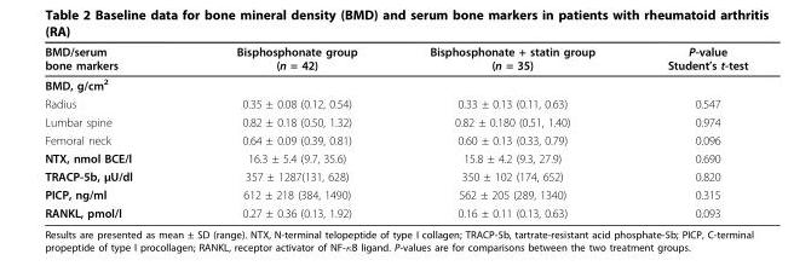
<table><thead><tr><td>BMD/serum bone markers</td><td>Bisphosphonate group (n = 42)</td><td>Bisphosphonate + statin group (n = 35)</td><td>P-value Student’s t-test</td></tr></thead><tbody><tr><td colspan="4">BMD, g/cm<sup>2</sup></td></tr><tr><td>Radius</td><td>0.35 ± 0.08 (0.12, 0.54)</td><td>0.33 ± 0.13 (0.11, 0.63)</td><td>0.547</td></tr><tr><td>Lumbar spine</td><td>0.82 ± 0.18 (0.50, 1.32)</td><td>0.82 ± 0.180 (0.51, 1.40)</td><td>0.974</td></tr><tr><td>Femoral neck</td><td>0.64 ± 0.09 (0.39, 0.81)</td><td>0.60 ± 0.13 (0.33, 0.79)</td><td>0.096</td></tr><tr><td>NTX, nmol BCE/l</td><td>16.3 ± 5.4 (9.7, 35.6)</td><td>15.8 ± 4.2 (9.3, 27.9)</td><td>0.690</td></tr><tr><td>TRACP-5b, μU/dl</td><td>357 ± 1287(131, 628)</td><td>350 ± 102 (174, 652)</td><td>0.820</td></tr><tr><td>PICP, ng/ml</td><td>612 ± 218 (384, 1490)</td><td>562 ± 205 (289, 1340)</td><td>0.315</td></tr><tr><td>RANKL, pmol/l</td><td>0.27 ± 0.36 (0.13, 1.92)</td><td>0.16 ± 0.11 (0.13, 0.63)</td><td>0.093</td></tr></tbody></table>